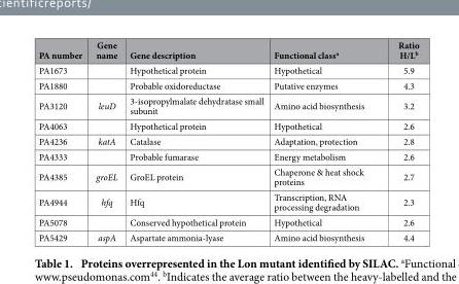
<table><thead><tr><td>PA number</td><td>Gene name</td><td>Gene description</td><td>Functional class<sup>a</sup></td><td>Ratio H/L<sup>b</sup></td></tr></thead><tbody><tr><td>PA1673</td><td></td><td>Hypothetical protein</td><td>Hypothetical</td><td>5.9</td></tr><tr><td>PA1880</td><td></td><td>Probable oxidoreductase</td><td>Putative enzymes</td><td>4.3</td></tr><tr><td>PA3120</td><td>leuD</td><td>3-isopropylmalate dehydratase small subunit</td><td>Amino acid biosynthesis</td><td>3.2</td></tr><tr><td>PA4063</td><td></td><td>Hypothetical protein</td><td>Hypothetical</td><td>2.6</td></tr><tr><td>PA4236</td><td>katA</td><td>Catalase</td><td>Adaptation, protection</td><td>2.8</td></tr><tr><td>PA4333</td><td></td><td>Probable fumarase</td><td>Energy metabolism</td><td>2.6</td></tr><tr><td>PA4385</td><td>groEL</td><td>GroEL protein</td><td>Chaperone &amp; heat shock proteins</td><td>2.7</td></tr><tr><td>PA4944</td><td>hfq</td><td>Hfq</td><td>Transcription, RNA processing degradation</td><td>2.3</td></tr><tr><td>PA5078</td><td></td><td>Conserved hypothetical protein</td><td>Hypothetical</td><td>2.6</td></tr><tr><td>PA5429</td><td>aspA</td><td>Aspartate ammonia-lyase</td><td>Amino acid biosynthesis</td><td>4.4</td></tr></tbody></table>